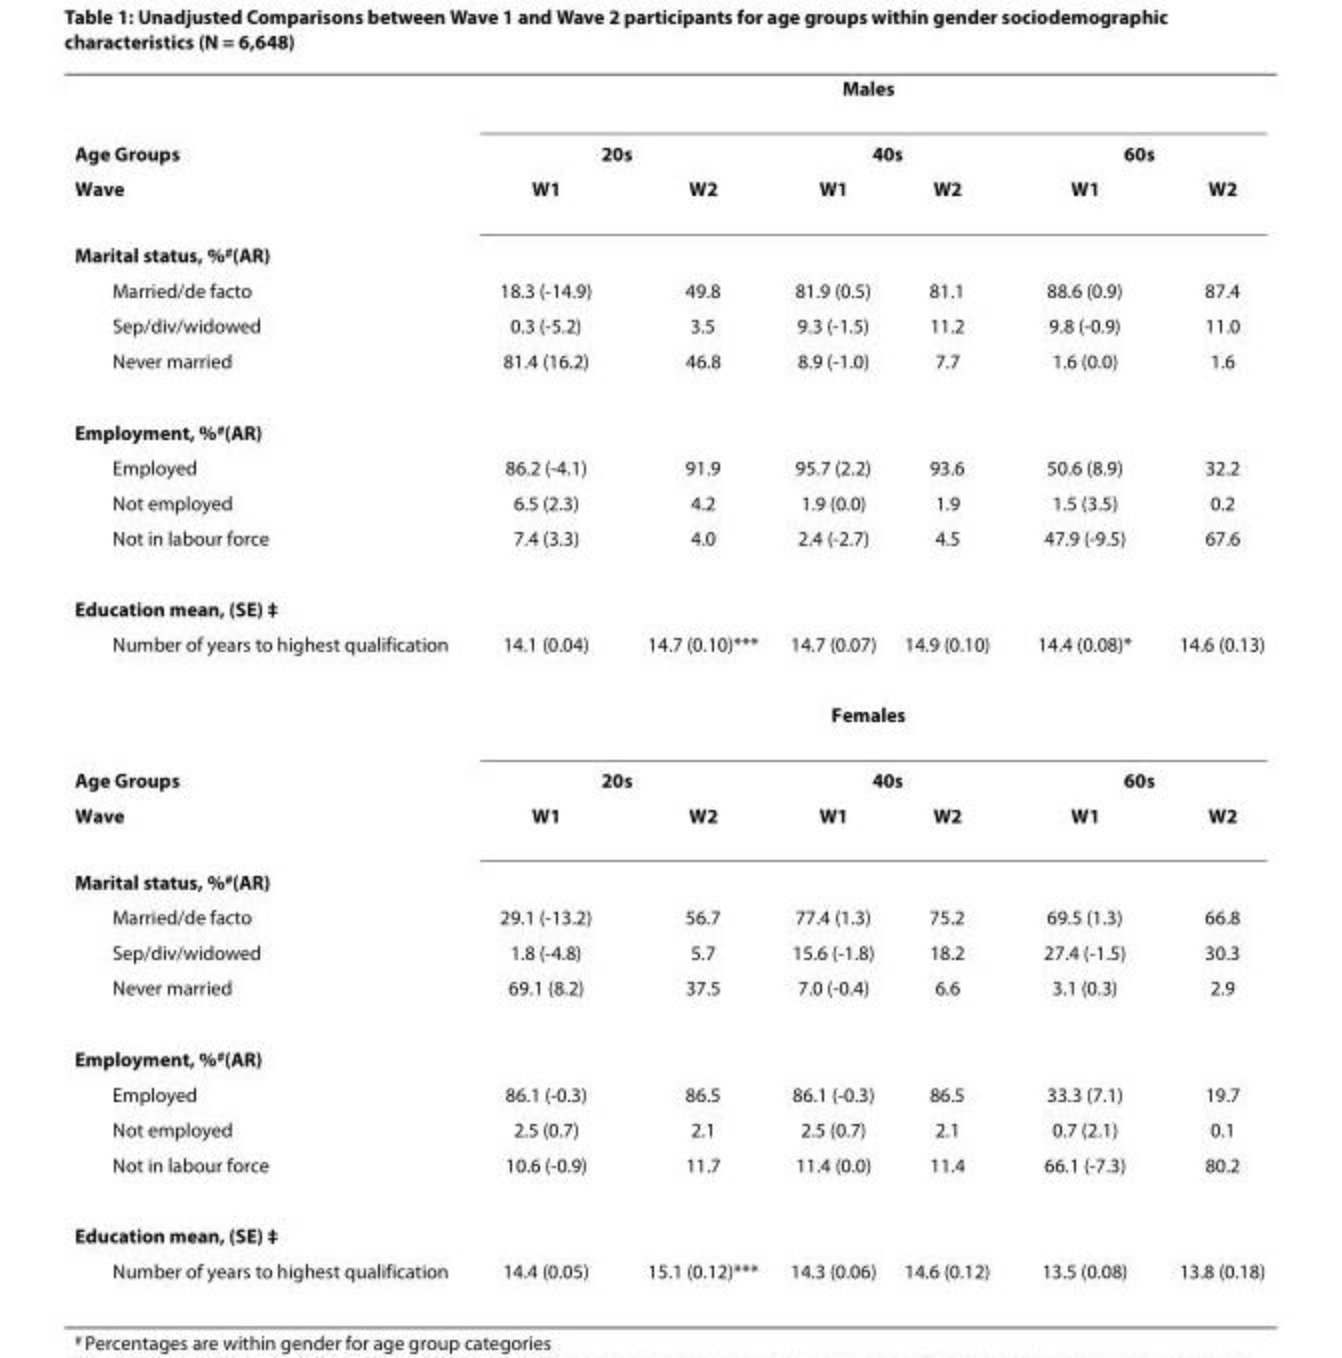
<table><thead><tr><td rowspan="3">Age Groups Wave</td><td colspan="6">Males</td></tr><tr><td colspan="2">20s</td><td colspan="2">40s</td><td colspan="2">60s</td></tr><tr><td>W1</td><td>W2</td><td>W1</td><td>W2</td><td>W1</td><td>W2</td></tr></thead><tbody><tr><td colspan="7">Marital status, %<sup>#</sup>(AR)</td></tr><tr><td>Married/de facto</td><td>18.3 (-14.9)</td><td>49.8</td><td>81.9 (0.5)</td><td>81.1</td><td>88.6 (0.9)</td><td>87.4</td></tr><tr><td>Sep/div/widowed</td><td>0.3 (-5.2)</td><td>3.5</td><td>9.3 (-1.5)</td><td>11.2</td><td>9.8 (-0.9)</td><td>11.0</td></tr><tr><td>Never married</td><td>81.4 (16.2)</td><td>46.8</td><td>8.9 (-1.0)</td><td>7.7</td><td>1.6 (0.0)</td><td>1.6</td></tr><tr><td colspan="7">Employment, %<sup>#</sup>(AR)</td></tr><tr><td>Employed</td><td>86.2 (-4.1)</td><td>91.9</td><td>95.7 (2.2)</td><td>93.6</td><td>50.6 (8.9)</td><td>32.2</td></tr><tr><td>Not employed</td><td>6.5 (2.3)</td><td>4.2</td><td>1.9 (0.0)</td><td>1.9</td><td>1.5 (3.5)</td><td>0.2</td></tr><tr><td>Not in labour force</td><td>7.4 (3.3)</td><td>4.0</td><td>2.4 (-2.7)</td><td>4.5</td><td>47.9 (-9.5)</td><td>67.6</td></tr><tr><td colspan="7">Education mean, (SE) ‡</td></tr><tr><td rowspan="2">Number of years to highest qualification</td><td>14.1 (0.04)</td><td>14.7 (0.10)***</td><td>14.7 (0.07)</td><td>14.9 (0.10)</td><td>14.4 (0.08)*</td><td>14.6 (0.13)</td></tr><tr><td colspan="6">Females</td></tr><tr><td>Age Groups</td><td colspan="2">20s</td><td colspan="2">40s</td><td colspan="2">60s</td></tr><tr><td>Wave</td><td>W1</td><td>W2</td><td>W1</td><td>W2</td><td>W1</td><td>W2</td></tr><tr><td colspan="7">Marital status, %<sup>#</sup>(AR)</td></tr><tr><td>Married/de facto</td><td>29.1 (-13.2)</td><td>56.7</td><td>77.4 (1.3)</td><td>75.2</td><td>69.5 (1.3)</td><td>66.8</td></tr><tr><td>Sep/div/widowed</td><td>1.8 (-4.8)</td><td>5.7</td><td>15.6 (-1.8)</td><td>18.2</td><td>27.4 (-1.5)</td><td>30.3</td></tr><tr><td>Never married</td><td>69.1 (8.2)</td><td>37.5</td><td>7.0 (-0.4)</td><td>6.6</td><td>3.1 (0.3)</td><td>2.9</td></tr><tr><td colspan="7">Employment, %<sup>#</sup>(AR)</td></tr><tr><td>Employed</td><td>86.1 (-0.3)</td><td>86.5</td><td>86.1 (-0.3)</td><td>86.5</td><td>33.3 (7.1)</td><td>19.7</td></tr><tr><td>Not employed</td><td>2.5 (0.7)</td><td>2.1</td><td>2.5 (0.7)</td><td>2.1</td><td>0.7 (2.1)</td><td>0.1</td></tr><tr><td>Not in labour force</td><td>10.6 (-0.9)</td><td>11.7</td><td>11.4 (0.0)</td><td>11.4</td><td>66.1 (-7.3)</td><td>80.2</td></tr><tr><td colspan="7">Education mean, (SE) ‡</td></tr><tr><td>Number of years to highest qualification</td><td>14.4 (0.05)</td><td>15.1 (0.12)***</td><td>14.3 (0.06)</td><td>14.6 (0.12)</td><td>13.5 (0.08)</td><td>13.8 (0.18)</td></tr></tbody></table>